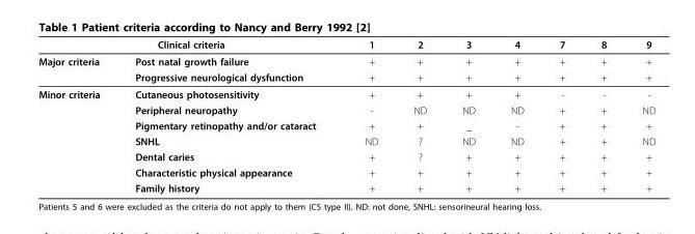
<table><thead><tr><td colspan="2">Clinical criteria</td><td rowspan="2">1 +</td><td rowspan="2">2 +</td><td rowspan="2">3 +</td><td rowspan="2">4 +</td><td rowspan="2">7 +</td><td rowspan="2">8 +</td><td rowspan="2">9 +</td></tr><tr><td>Major criteria</td><td>Post natal growth failure</td></tr></thead><tbody><tr><td></td><td>Progressive neurological dysfunction</td><td>+</td><td>+</td><td>+</td><td>+</td><td>+</td><td>+</td><td>+</td></tr><tr><td rowspan="7">Minor criteria</td><td>Cutaneous photosensitivity</td><td>+</td><td>+</td><td>+</td><td>+</td><td>-</td><td>-</td><td>-</td></tr><tr><td>Peripheral neuropathy</td><td>-</td><td>ND</td><td>ND</td><td>ND</td><td>+</td><td>+</td><td>ND</td></tr><tr><td>Pigmentary retinopathy and/or cataract</td><td>+</td><td>+</td><td>_</td><td>-</td><td>+</td><td>+</td><td>+</td></tr><tr><td>SNHL</td><td>ND</td><td>?</td><td>ND</td><td>ND</td><td>+</td><td>+</td><td>ND</td></tr><tr><td>Dental caries</td><td>+</td><td>?</td><td>+</td><td>+</td><td>+</td><td>+</td><td>+</td></tr><tr><td>Characteristic physical appearance</td><td>+</td><td>+</td><td>+</td><td>+</td><td>+</td><td>+</td><td>+</td></tr><tr><td>Family history</td><td>+</td><td>+</td><td>+</td><td>+</td><td>+</td><td>+</td><td>+</td></tr></tbody></table>